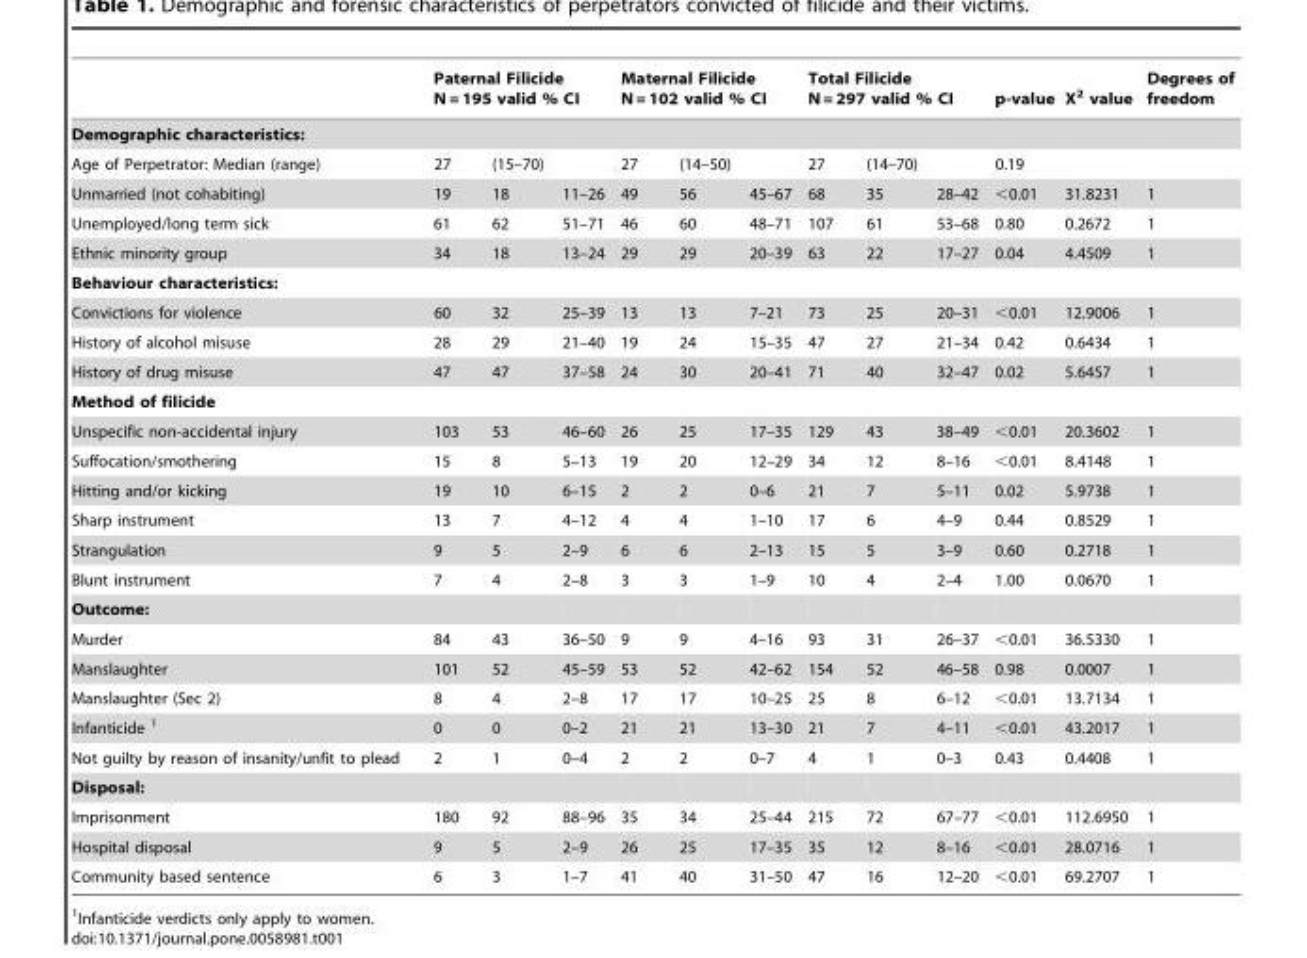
<table><thead><tr><td></td><td colspan="3">Paternal Filicide N = 195 valid % CI</td><td colspan="3">Maternal Filicide N = 102 valid % CI</td><td colspan="3">Total Filicide N = 297 valid % CI</td><td>p-value</td><td>X<sup>2</sup> value</td><td>Degrees of freedom</td></tr><tr><td colspan="13">Demographic characteristics:</td></tr><tr><td>Age of Perpetrator: Median (range)</td><td>27</td><td>(15–70)</td><td></td><td>27</td><td>(14–50)</td><td></td><td>27</td><td>(14–70)</td><td></td><td>0.19</td><td></td><td></td></tr></thead><tbody><tr><td>Unmarried (not cohabiting)</td><td>19</td><td>18</td><td>11–26</td><td>49</td><td>56</td><td>45–67</td><td>68</td><td>35</td><td>28–42</td><td>&lt;0.01</td><td>31.8231</td><td>1</td></tr><tr><td>Unemployed/long term sick</td><td>61</td><td>62</td><td>51–71</td><td>46</td><td>60</td><td>48–71</td><td>107</td><td>61</td><td>53–68</td><td>0.80</td><td>0.2672</td><td>1</td></tr><tr><td>Ethnic minority group</td><td>34</td><td>18</td><td>13–24</td><td>29</td><td>29</td><td>20–39</td><td>63</td><td>22</td><td>17–27</td><td>0.04</td><td>4.4509</td><td>1</td></tr><tr><td colspan="13">Behaviour characteristics:</td></tr><tr><td>Convictions for violence</td><td>60</td><td>32</td><td>25–39</td><td>13</td><td>13</td><td>7–21</td><td>73</td><td>25</td><td>20–31</td><td>&lt;0.01</td><td>12.9006</td><td>1</td></tr><tr><td>History of alcohol misuse</td><td>28</td><td>29</td><td>21–40</td><td>19</td><td>24</td><td>15–35</td><td>47</td><td>27</td><td>21–34</td><td>0.42</td><td>0.6434</td><td>1</td></tr><tr><td>History of drug misuse</td><td>47</td><td>47</td><td>37–58</td><td>24</td><td>30</td><td>20–41</td><td>71</td><td>40</td><td>32–47</td><td>0.02</td><td>5.6457</td><td>1</td></tr><tr><td colspan="13">Method of filicide</td></tr><tr><td>Unspecific non-accidental injury</td><td>103</td><td>53</td><td>46–60</td><td>26</td><td>25</td><td>17–35</td><td>129</td><td>43</td><td>38–49</td><td>&lt;0.01</td><td>20.3602</td><td>1</td></tr><tr><td>Suffocation/smothering</td><td>15</td><td>8</td><td>5–13</td><td>19</td><td>20</td><td>12–29</td><td>34</td><td>12</td><td>8–16</td><td>&lt;0.01</td><td>8.4148</td><td>1</td></tr><tr><td>Hitting and/or kicking</td><td>19</td><td>10</td><td>6–15</td><td>2</td><td>2</td><td>0–6</td><td>21</td><td>7</td><td>5–11</td><td>0.02</td><td>5.9738</td><td>1</td></tr><tr><td>Sharp instrument</td><td>13</td><td>7</td><td>4–12</td><td>4</td><td>4</td><td>1–10</td><td>17</td><td>6</td><td>4–9</td><td>0.44</td><td>0.8529</td><td>1</td></tr><tr><td>Strangulation</td><td>9</td><td>5</td><td>2–9</td><td>6</td><td>6</td><td>2–13</td><td>15</td><td>5</td><td>3–9</td><td>0.60</td><td>0.2718</td><td>1</td></tr><tr><td>Blunt instrument</td><td>7</td><td>4</td><td>2–8</td><td>3</td><td>3</td><td>1–9</td><td>10</td><td>4</td><td>2–4</td><td>1.00</td><td>0.0670</td><td>1</td></tr><tr><td colspan="13">Outcome:</td></tr><tr><td>Murder</td><td>84</td><td>43</td><td>36–50</td><td>9</td><td>9</td><td>4–16</td><td>93</td><td>31</td><td>26–37</td><td>&lt;0.01</td><td>36.5330</td><td>1</td></tr><tr><td>Manslaughter</td><td>101</td><td>52</td><td>45–59</td><td>53</td><td>52</td><td>42–62</td><td>154</td><td>52</td><td>46–58</td><td>0.98</td><td>0.0007</td><td>1</td></tr><tr><td>Manslaughter (Sec 2)</td><td>8</td><td>4</td><td>2–8</td><td>17</td><td>17</td><td>10–25</td><td>25</td><td>8</td><td>6–12</td><td>&lt;0.01</td><td>13.7134</td><td>1</td></tr><tr><td>Infanticide 1</td><td>0</td><td>0</td><td>0–2</td><td>21</td><td>21</td><td>13–30</td><td>21</td><td>7</td><td>4–11</td><td>&lt;0.01</td><td>43.2017</td><td>1</td></tr><tr><td>Not guilty by reason of insanity/unfit to plead</td><td>2</td><td>1</td><td>0–4</td><td>2</td><td>2</td><td>0–7</td><td>4</td><td>1</td><td>0–3</td><td>0.43</td><td>0.4408</td><td>1</td></tr><tr><td colspan="13">Disposal:</td></tr><tr><td>Imprisonment</td><td>180</td><td>92</td><td>88–96</td><td>35</td><td>34</td><td>25–44</td><td>215</td><td>72</td><td>67–77</td><td>&lt;0.01</td><td>112.6950</td><td>1</td></tr><tr><td>Hospital disposal</td><td>9</td><td>5</td><td>2–9</td><td>26</td><td>25</td><td>17–35</td><td>35</td><td>12</td><td>8–16</td><td>&lt;0.01</td><td>28.0716</td><td>1</td></tr><tr><td>Community based sentence</td><td>6</td><td>3</td><td>1–7</td><td>41</td><td>40</td><td>31–50</td><td>47</td><td>16</td><td>12–20</td><td>&lt;0.01</td><td>69.2707</td><td>1</td></tr></tbody></table>